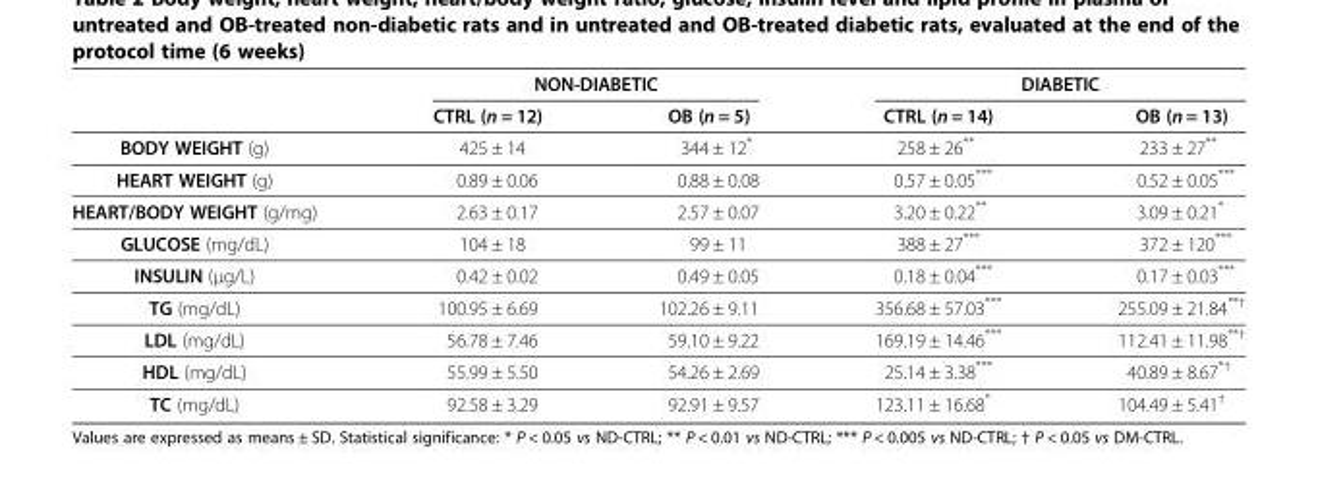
<table><thead><tr><td rowspan="2"></td><td colspan="2">NON-DIABETIC</td><td colspan="2">DIABETIC</td></tr><tr><td>CTRL (n = 12)</td><td>OB (n = 5)</td><td>CTRL (n = 14)</td><td>OB (n = 13)</td></tr></thead><tbody><tr><td>BODY WEIGHT (g)</td><td>425 ± 14</td><td>344 ± 12*</td><td>258 ± 26**</td><td>233 ± 27**</td></tr><tr><td>HEART WEIGHT (g)</td><td>0.89 ± 0.06</td><td>0.88 ± 0.08</td><td>0.57 ± 0.05***</td><td>0.52 ± 0.05***</td></tr><tr><td>HEART/BODY WEIGHT (g/mg)</td><td>2.63 ± 0.17</td><td>2.57 ± 0.07</td><td>3.20 ± 0.22**</td><td>3.09 ± 0.21*</td></tr><tr><td>GLUCOSE (mg/dL)</td><td>104 ± 18</td><td>99 ± 11</td><td>388 ± 27***</td><td>372 ± 120***</td></tr><tr><td>INSULIN (μg/L)</td><td>0.42 ± 0.02</td><td>0.49 ± 0.05</td><td>0.18 ± 0.04***</td><td>0.17 ± 0.03***</td></tr><tr><td>TG (mg/dL)</td><td>100.95 ± 6.69</td><td>102.26 ± 9.11</td><td>356.68 ± 57.03***</td><td>255.09 ± 21.84<sup>**†</sup></td></tr><tr><td>LDL (mg/dL)</td><td>56.78 ± 7.46</td><td>59.10 ± 9.22</td><td>169.19 ± 14.46***</td><td>112.41 ± 11.98<sup>**†</sup></td></tr><tr><td>HDL (mg/dL)</td><td>55.99 ± 5.50</td><td>54.26 ± 2.69</td><td>25.14 ± 3.38***</td><td>40.89 ± 8.67<sup>*†</sup></td></tr><tr><td>TC (mg/dL)</td><td>92.58 ± 3.29</td><td>92.91 ± 9.57</td><td>123.11 ± 16.68*</td><td>104.49 ± 5.41<sup>†</sup></td></tr></tbody></table>